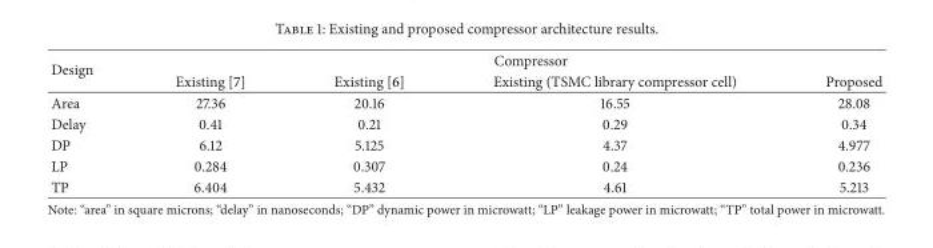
<table><thead><tr><td rowspan="2">Design</td><td colspan="4">Compressor</td></tr><tr><td>Existing [7]</td><td>Existing [6]</td><td>Existing (TSMC library compressor cell)</td><td>Proposed</td></tr></thead><tbody><tr><td>Area</td><td>27.36</td><td>20.16</td><td>16.55</td><td>28.08</td></tr><tr><td>Delay</td><td>0.41</td><td>0.21</td><td>0.29</td><td>0.34</td></tr><tr><td>DP</td><td>6.12</td><td>5.125</td><td>4.37</td><td>4.977</td></tr><tr><td>LP</td><td>0.284</td><td>0.307</td><td>0.24</td><td>0.236</td></tr><tr><td>TP</td><td>6.404</td><td>5.432</td><td>4.61</td><td>5.213</td></tr></tbody></table>